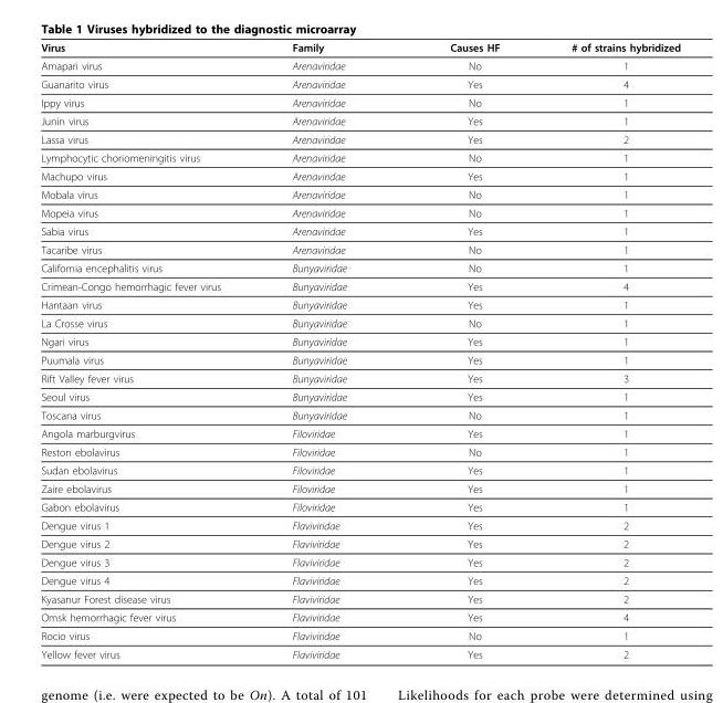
<table><thead><tr><td>Virus</td><td>Family</td><td>Causes HF</td><td># of strains hybridized</td></tr></thead><tbody><tr><td>Amapari virus</td><td>Arenaviridae</td><td>No</td><td>1</td></tr><tr><td>Guanarito virus</td><td>Arenaviridae</td><td>Yes</td><td>4</td></tr><tr><td>Ippy virus</td><td>Arenaviridae</td><td>No</td><td>1</td></tr><tr><td>Junin virus</td><td>Arenaviridae</td><td>Yes</td><td>1</td></tr><tr><td>Lassa virus</td><td>Arenaviridae</td><td>Yes</td><td>2</td></tr><tr><td>Lymphocytic choriomeningitis virus</td><td>Arenaviridae</td><td>No</td><td>1</td></tr><tr><td>Machupo virus</td><td>Arenaviridae</td><td>Yes</td><td>1</td></tr><tr><td>Mobala virus</td><td>Arenaviridae</td><td>No</td><td>1</td></tr><tr><td>Mopeia virus</td><td>Arenaviridae</td><td>No</td><td>1</td></tr><tr><td>Sabia virus</td><td>Arenaviridae</td><td>Yes</td><td>1</td></tr><tr><td>Tacaribe virus</td><td>Arenaviridae</td><td>No</td><td>1</td></tr><tr><td>California encephalitis virus</td><td>Bunyaviridae</td><td>No</td><td>1</td></tr><tr><td>Crimean-Congo hemorrhagic fever virus</td><td>Bunyaviridae</td><td>Yes</td><td>4</td></tr><tr><td>Hantaan virus</td><td>Bunyaviridae</td><td>Yes</td><td>1</td></tr><tr><td>La Crosse virus</td><td>Bunyaviridae</td><td>No</td><td>1</td></tr><tr><td>Ngari virus</td><td>Bunyaviridae</td><td>Yes</td><td>1</td></tr><tr><td>Puumala virus</td><td>Bunyaviridae</td><td>Yes</td><td>1</td></tr><tr><td>Rift Valley fever virus</td><td>Bunyaviridae</td><td>Yes</td><td>3</td></tr><tr><td>Seoul virus</td><td>Bunyaviridae</td><td>Yes</td><td>1</td></tr><tr><td>Toscana virus</td><td>Bunyaviridae</td><td>No</td><td>1</td></tr><tr><td>Angola marburgvirus</td><td>Filoviridae</td><td>Yes</td><td>1</td></tr><tr><td>Reston ebolavirus</td><td>Filoviridae</td><td>No</td><td>1</td></tr><tr><td>Sudan ebolavirus</td><td>Filoviridae</td><td>Yes</td><td>1</td></tr><tr><td>Zaire ebolavirus</td><td>Filoviridae</td><td>Yes</td><td>1</td></tr><tr><td>Gabon ebolavirus</td><td>Filoviridae</td><td>Yes</td><td>1</td></tr><tr><td>Dengue virus 1</td><td>Flaviviridae</td><td>Yes</td><td>2</td></tr><tr><td>Dengue virus 2</td><td>Flaviviridae</td><td>Yes</td><td>2</td></tr><tr><td>Dengue virus 3</td><td>Flaviviridae</td><td>Yes</td><td>2</td></tr><tr><td>Dengue virus 4</td><td>Flaviviridae</td><td>Yes</td><td>2</td></tr><tr><td>Kyasanur Forest disease virus</td><td>Flaviviridae</td><td>Yes</td><td>2</td></tr><tr><td>Omsk hemorrhagic fever virus</td><td>Flaviviridae</td><td>Yes</td><td>4</td></tr><tr><td>Rocio virus</td><td>Flaviviridae</td><td>No</td><td>1</td></tr><tr><td>Yellow fever virus</td><td>Flaviviridae</td><td>Yes</td><td>2</td></tr></tbody></table>